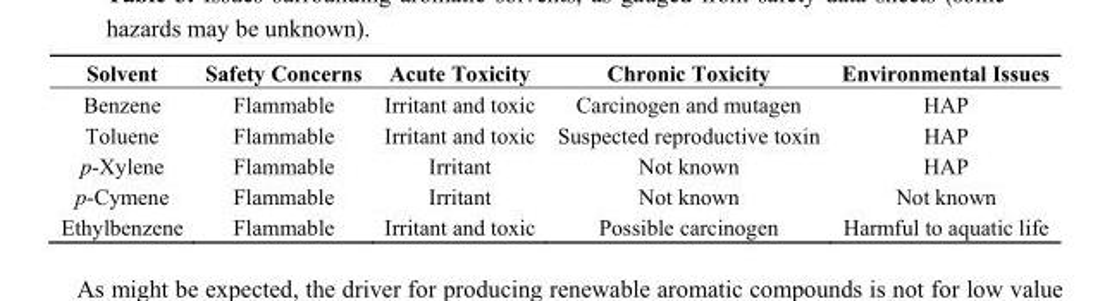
<table><thead><tr><td>Solvent</td><td>Safety Concerns</td><td>Acute Toxicity</td><td>Chronic Toxicity</td><td>Environmental Issues</td></tr></thead><tbody><tr><td>Benzene</td><td>Flammable</td><td>Irritant and toxic</td><td>Carcinogen and mutagen</td><td>HAP</td></tr><tr><td>Toluene</td><td>Flammable</td><td>Irritant and toxic</td><td>Suspected reproductive toxin</td><td>HAP</td></tr><tr><td>p-Xylene</td><td>Flammable</td><td>Irritant</td><td>Not known</td><td>HAP</td></tr><tr><td>p-Cymene</td><td>Flammable</td><td>Irritant</td><td>Not known</td><td>Not known</td></tr><tr><td>Ethylbenzene</td><td>Flammable</td><td>Irritant and toxic</td><td>Possible carcinogen</td><td>Harmful to aquatic life</td></tr></tbody></table>